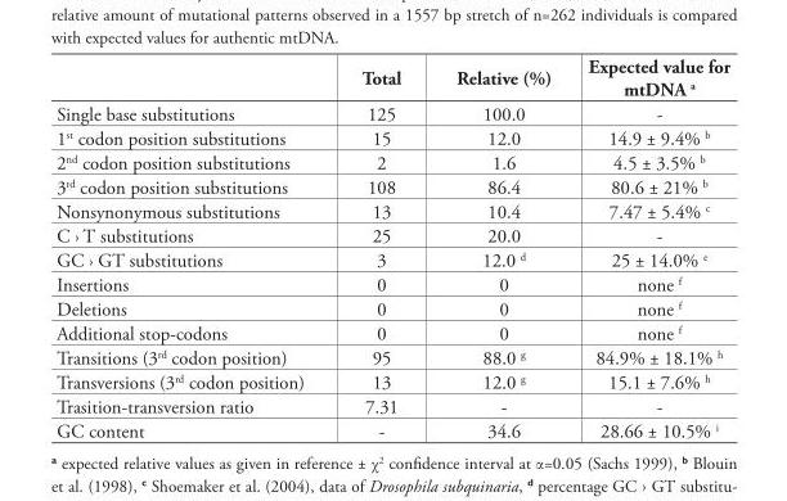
<table><thead><tr><td></td><td>Total</td><td>Relative (%)</td><td>Expected value for mtDNA a</td></tr></thead><tbody><tr><td>Single base substitutions</td><td>125</td><td>100.0</td><td>-</td></tr><tr><td>1<sup>st</sup> codon position substitutions</td><td>15</td><td>12.0</td><td>14.9 ± 9.4% <sup>b</sup></td></tr><tr><td>2<sup>nd</sup> codon position substitutions</td><td>2</td><td>1.6</td><td>4.5 ± 3.5% <sup>b</sup></td></tr><tr><td>3<sup>rd</sup> codon position substitutions</td><td>108</td><td>86.4</td><td>80.6 ± 21% <sup>b</sup></td></tr><tr><td>Nonsynonymous substitutions</td><td>13</td><td>10.4</td><td>7.47 ± 5.4% <sup>c</sup></td></tr><tr><td>C › T substitutions</td><td>25</td><td>20.0</td><td>-</td></tr><tr><td>GC › GT substitutions</td><td>3</td><td>12.0 <sup>d</sup></td><td>25 ± 14.0% <sup>e</sup></td></tr><tr><td>Insertions</td><td>0</td><td>0</td><td>none <sup>f</sup></td></tr><tr><td>Deletions</td><td>0</td><td>0</td><td>none <sup>f</sup></td></tr><tr><td>Additional stop-codons</td><td>0</td><td>0</td><td>none <sup>f</sup></td></tr><tr><td>Transitions (3<sup>rd</sup> codon position)</td><td>95</td><td>88.0 <sup>g</sup></td><td>84.9% ± 18.1% <sup>h</sup></td></tr><tr><td>Transversions (3<sup>rd</sup> codon position)</td><td>13</td><td>12.0 <sup>g</sup></td><td>15.1 ± 7.6% <sup>h</sup></td></tr><tr><td>Trasition-transversion ratio</td><td>7.31</td><td>-</td><td>-</td></tr><tr><td>GC content</td><td>-</td><td>34.6</td><td>28.66 ± 10.5% <sup>i</sup></td></tr></tbody></table>